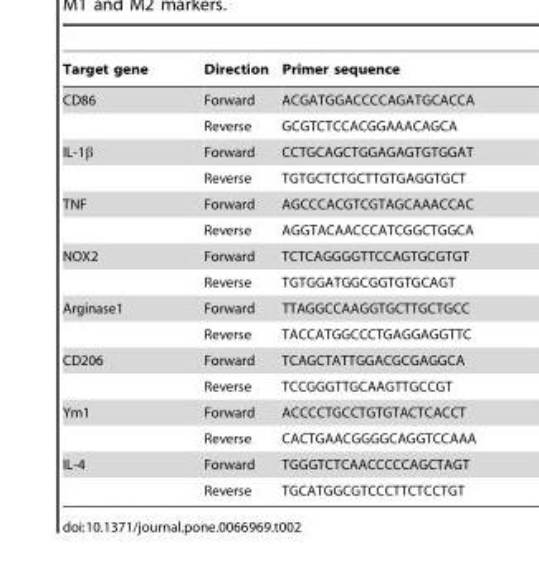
<table><thead><tr><td>Target gene</td><td>Direction</td><td>Primer sequence</td></tr></thead><tbody><tr><td rowspan="2">CD86</td><td>Forward</td><td>ACGATGGACCCCAGATGCACCA</td></tr><tr><td>Reverse</td><td>GCGTCTCCACGGAAACAGCA</td></tr><tr><td rowspan="2">IL-1β</td><td>Forward</td><td>CCTGCAGCTGGAGAGTGTGGAT</td></tr><tr><td>Reverse</td><td>TGTGCTCTGCTTGTGAGGTGCT</td></tr><tr><td rowspan="2">TNF</td><td>Forward</td><td>AGCCCACGTCGTAGCAAACCAC</td></tr><tr><td>Reverse</td><td>AGGTACAACCCATCGGCTGGCA</td></tr><tr><td rowspan="2">NOX2</td><td>Forward</td><td>TCTCAGGGGTTCCAGTGCGTGT</td></tr><tr><td>Reverse</td><td>TGTGGATGGCGGTGTGCAGT</td></tr><tr><td rowspan="2">Arginase1</td><td>Forward</td><td>TTAGGCCAAGGTGCTTGCTGCC</td></tr><tr><td>Reverse</td><td>TACCATGGCCCTGAGGAGGTTC</td></tr><tr><td rowspan="2">CD206</td><td>Forward</td><td>TCAGCTATTGGACGCGAGGCA</td></tr><tr><td>Reverse</td><td>TCCGGGTTGCAAGTTGCCGT</td></tr><tr><td rowspan="2">Ym1</td><td>Forward</td><td>ACCCCTGCCTGTGTACTCACCT</td></tr><tr><td>Reverse</td><td>CACTGAACGGGGCAGGTCCAAA</td></tr><tr><td rowspan="2">IL-4</td><td>Forward</td><td>TGGGTCTCAACCCCCAGCTAGT</td></tr><tr><td>Reverse</td><td>TGCATGGCGTCCCTTCTCCTGT</td></tr></tbody></table>